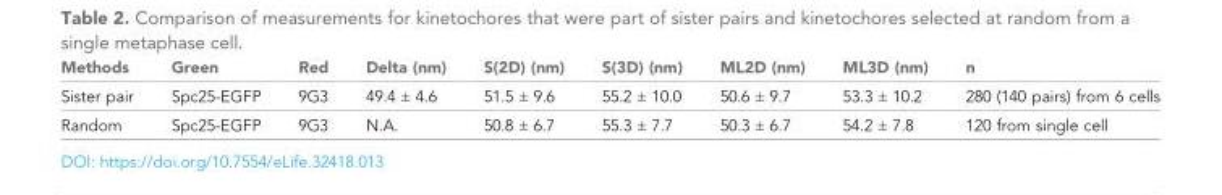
<table><thead><tr><td>Methods</td><td>Green</td><td>Red</td><td>Delta (nm)</td><td>S(2D) (nm)</td><td>S(3D) (nm)</td><td>ML2D (nm)</td><td>ML3D (nm)</td><td>n</td></tr></thead><tbody><tr><td>Sister pair</td><td>Spc25-EGFP</td><td>9G3</td><td>49.4 ± 4.6</td><td>51.5 ± 9.6</td><td>55.2 ± 10.0</td><td>50.6 ± 9.7</td><td>53.3 ± 10.2</td><td>280 (140 pairs) from 6 cells</td></tr><tr><td>Random</td><td>Spc25-EGFP</td><td>9G3</td><td>N.A.</td><td>50.8 ± 6.7</td><td>55.3 ± 7.7</td><td>50.3 ± 6.7</td><td>54.2 ± 7.8</td><td>120 from single cell</td></tr></tbody></table>